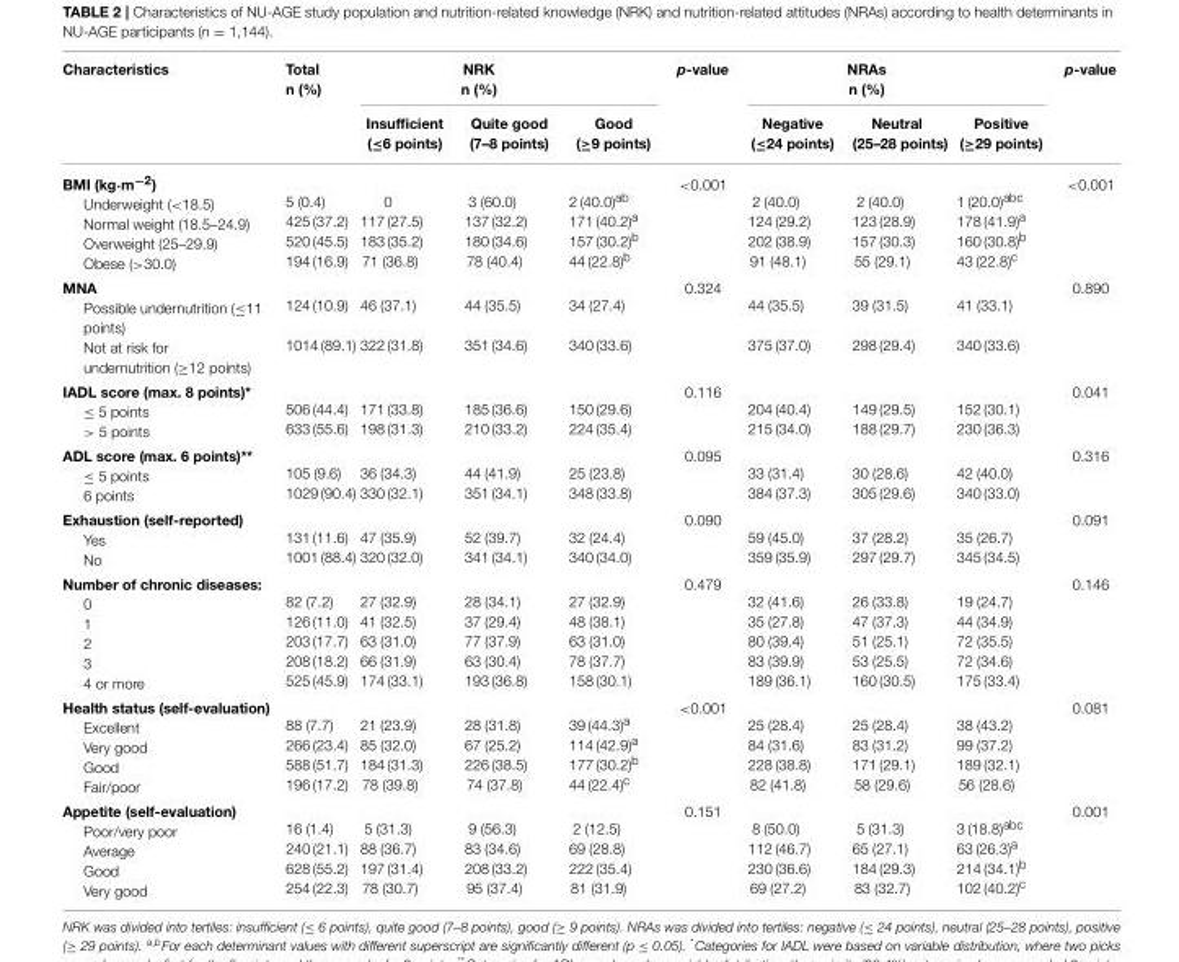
<table><thead><tr><td rowspan="2">Characteristics</td><td rowspan="2">Total n (%)</td><td colspan="3">NRK n (%)</td><td rowspan="2">p-value</td><td colspan="3">NRAs n (%)</td><td rowspan="2">p-value</td></tr><tr><td>Insufficient (≤6 points)</td><td>Quite good (7–8 points)</td><td>Good (≥9 points)</td><td>Negative (≤24 points)</td><td>Neutral (25–28 points)</td><td>Positive (≥29 points)</td></tr></thead><tbody><tr><td>BMI (kg·m<sup>−2</sup>) Underweight (&lt;18.5) Normal weight (18.5–24.9) Overweight (25–29.9) Obese (&gt;30.0)</td><td>5 (0.4) 425 (37.2) 520 (45.5) 194 (16.9)</td><td>0 117 (27.5) 183 (35.2) 71 (36.8)</td><td>3 (60.0) 137 (32.2) 180 (34.6) 78 (40.4)</td><td>2 (40.0)<sup>ab</sup> 171 (40.2)<sup>a</sup> 157 (30.2)<sup>b</sup> 44 (22.8)<sup>b</sup></td><td>&lt;0.001</td><td>2 (40.0) 124 (29.2) 202 (38.9) 91 (48.1)</td><td>2 (40.0) 123 (28.9) 157 (30.3) 55 (29.1)</td><td>1 (20.0)<sup>abc</sup> 178 (41.9)<sup>a</sup> 160 (30.8)<sup>b</sup> 43 (22.8)<sup>c</sup></td><td>&lt;0.001</td></tr><tr><td>MNA Possible undernutrition (≤11 points) Not at risk for undernutrition (≥12 points)</td><td>124 (10.9) 1014 (89.1)</td><td>46 (37.1) 322 (31.8)</td><td>44 (35.5) 351 (34.6)</td><td>34 (27.4) 340 (33.6)</td><td>0.324</td><td>44 (35.5) 375 (37.0)</td><td>39 (31.5) 298 (29.4)</td><td>41 (33.1) 340 (33.6)</td><td>0.890</td></tr><tr><td>IADL score (max. 8 points)* ≤ 5 points &gt; 5 points</td><td>506 (44.4) 633 (55.6)</td><td>171 (33.8) 198 (31.3)</td><td>185 (36.6) 210 (33.2)</td><td>150 (29.6) 224 (35.4)</td><td>0.116</td><td>204 (40.4) 215 (34.0)</td><td>149 (29.5) 188 (29.7)</td><td>152 (30.1) 230 (36.3)</td><td>0.041</td></tr><tr><td>ADL score (max. 6 points)** ≤ 5 points 6 points</td><td>105 (9.6) 1029 (90.4)</td><td>36 (34.3) 330 (32.1)</td><td>44 (41.9) 351 (34.1)</td><td>25 (23.8) 348 (33.8)</td><td>0.095</td><td>33 (31.4) 384 (37.3)</td><td>30 (28.6) 305 (29.6)</td><td>42 (40.0) 340 (33.0)</td><td>0.316</td></tr><tr><td>Exhaustion (self-reported) Yes No</td><td>131 (11.6) 1001 (88.4)</td><td>47 (35.9) 320 (32.0)</td><td>52 (39.7) 341 (34.1)</td><td>32 (24.4) 340 (34.0)</td><td>0.090</td><td>59 (45.0) 359 (35.9)</td><td>37 (28.2) 297 (29.7)</td><td>35 (26.7) 345 (34.5)</td><td>0.091</td></tr><tr><td>Number of chronic diseases: 0 1 2 3 4 or more</td><td>82 (7.2) 126 (11.0) 203 (17.7) 208 (18.2) 525 (45.9)</td><td>27 (32.9) 41 (32.5) 63 (31.0) 66 (31.9) 174 (33.1)</td><td>28 (34.1) 37 (29.4) 77 (37.9) 63 (30.4) 193 (36.8)</td><td>27 (32.9) 48 (38.1) 63 (31.0) 78 (37.7) 158 (30.1)</td><td>0.479</td><td>32 (41.6) 35 (27.8) 80 (39.4) 83 (39.9) 189 (36.1)</td><td>26 (33.8) 47 (37.3) 51 (25.1) 53 (25.5) 160 (30.5)</td><td>19 (24.7) 44 (34.9) 72 (35.5) 72 (34.6) 175 (33.4)</td><td>0.146</td></tr><tr><td>Health status (self-evaluation) Excellent Very good Good Fair/poor</td><td>88 (7.7) 266 (23.4) 588 (51.7) 196 (17.2)</td><td>21 (23.9) 85 (32.0) 184 (31.3) 78 (39.8)</td><td>28 (31.8) 67 (25.2) 226 (38.5) 74 (37.8)</td><td>39 (44.3)<sup>a</sup> 114 (42.9)<sup>a</sup> 177 (30.2)<sup>b</sup> 44 (22.4)<sup>c</sup></td><td>&lt;0.001</td><td>25 (28.4) 84 (31.6) 228 (38.8) 82 (41.8)</td><td>25 (28.4) 83 (31.2) 171 (29.1) 58 (29.6)</td><td>38 (43.2) 99 (37.2) 189 (32.1) 56 (28.6)</td><td>0.081</td></tr><tr><td>Appetite (self-evaluation) Poor/very poor Average Good Very good</td><td>16 (1.4) 240 (21.1) 628 (55.2) 254 (22.3)</td><td>5 (31.3) 88 (36.7) 197 (31.4) 78 (30.7)</td><td>9 (56.3) 83 (34.6) 208 (33.2) 95 (37.4)</td><td>2 (12.5) 69 (28.8) 222 (35.4) 81 (31.9)</td><td>0.151</td><td>8 (50.0) 112 (46.7) 230 (36.6) 69 (27.2)</td><td>5 (31.3) 65 (27.1) 184 (29.3) 83 (32.7)</td><td>3 (18.8)<sup>abc</sup> 63 (26.3)<sup>a</sup> 214 (34.1)<sup>b</sup> 102 (40.2)<sup>c</sup></td><td>0.001</td></tr></tbody></table>